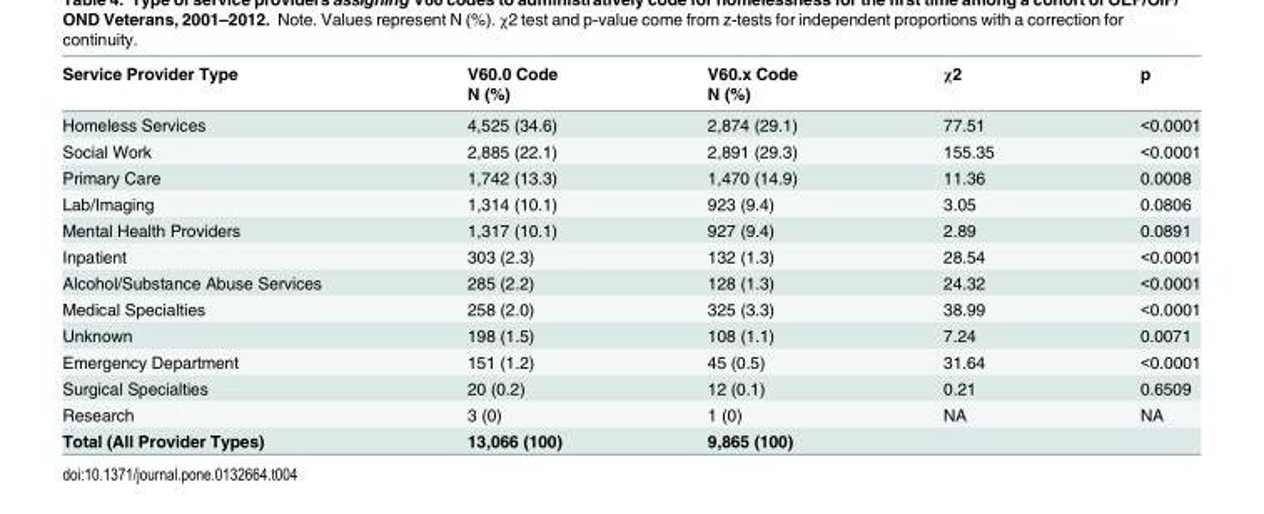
<table><thead><tr><td rowspan="2">Service Provider Type</td><td rowspan="2">V60.0 Code N (%)</td><td rowspan="2">V60.x Code N (%)</td><td rowspan="2">χ2</td><td rowspan="2">p</td></tr><tr></tr></thead><tbody><tr><td>Homeless Services</td><td>4,525 (34.6)</td><td>2,874 (29.1)</td><td>77.51</td><td>&lt;0.0001</td></tr><tr><td>Social Work</td><td>2,885 (22.1)</td><td>2,891 (29.3)</td><td>155.35</td><td>&lt;0.0001</td></tr><tr><td>Primary Care</td><td>1,742 (13.3)</td><td>1,470 (14.9)</td><td>11.36</td><td>0.0008</td></tr><tr><td>Lab/Imaging</td><td>1,314 (10.1)</td><td>923 (9.4)</td><td>3.05</td><td>0.0806</td></tr><tr><td>Mental Health Providers</td><td>1,317 (10.1)</td><td>927 (9.4)</td><td>2.89</td><td>0.0891</td></tr><tr><td>Inpatient</td><td>303 (2.3)</td><td>132 (1.3)</td><td>28.54</td><td>&lt;0.0001</td></tr><tr><td>Alcohol/Substance Abuse Services</td><td>285 (2.2)</td><td>128 (1.3)</td><td>24.32</td><td>&lt;0.0001</td></tr><tr><td>Medical Specialties</td><td>258 (2.0)</td><td>325 (3.3)</td><td>38.99</td><td>&lt;0.0001</td></tr><tr><td>Unknown</td><td>198 (1.5)</td><td>108 (1.1)</td><td>7.24</td><td>0.0071</td></tr><tr><td>Emergency Department</td><td>151 (1.2)</td><td>45 (0.5)</td><td>31.64</td><td>&lt;0.0001</td></tr><tr><td>Surgical Specialties</td><td>20 (0.2)</td><td>12 (0.1)</td><td>0.21</td><td>0.6509</td></tr><tr><td>Research</td><td>3 (0)</td><td>1 (0)</td><td>NA</td><td>NA</td></tr><tr><td>Total (All Provider Types)</td><td>13,066 (100)</td><td>9,865 (100)</td><td></td><td></td></tr></tbody></table>